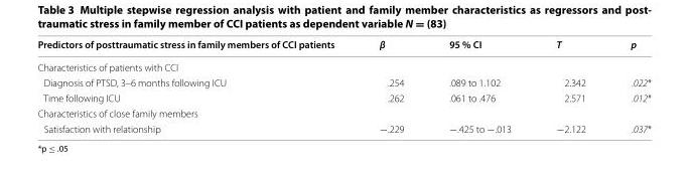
<table><thead><tr><td>Predictors of posttraumatic stress in family members of CCI patients</td><td>β</td><td>95 % CI</td><td>T</td><td>p</td></tr></thead><tbody><tr><td colspan="5">Characteristics of patients with CCI</td></tr><tr><td>Diagnosis of PTSD, 3–6 months following ICU</td><td>.254</td><td>.089 to 1.102</td><td>2.342</td><td>.022*</td></tr><tr><td>Time following ICU</td><td>.262</td><td>.061 to .476</td><td>2.571</td><td>.012*</td></tr><tr><td colspan="5">Characteristics of close family members</td></tr><tr><td>Satisfaction with relationship</td><td>−.229</td><td>−.425 to −.013</td><td>−2.122</td><td>.037*</td></tr></tbody></table>